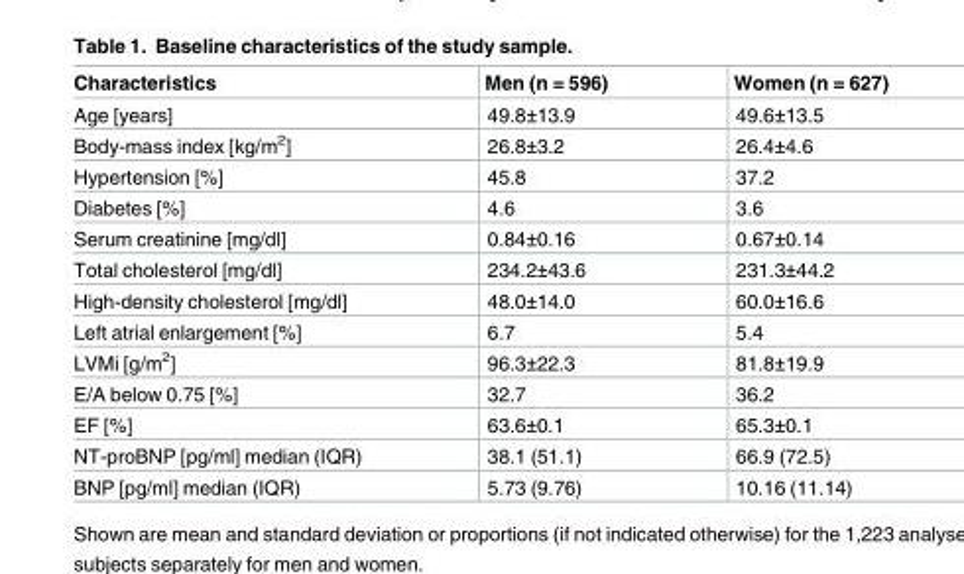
<table><thead><tr><td>Characteristics</td><td>Men (n = 596)</td><td>Women (n = 627)</td></tr></thead><tbody><tr><td>Age [years]</td><td>49.8±13.9</td><td>49.6±13.5</td></tr><tr><td>Body-mass index [kg/m<sup>2</sup>]</td><td>26.8±3.2</td><td>26.4±4.6</td></tr><tr><td>Hypertension [%]</td><td>45.8</td><td>37.2</td></tr><tr><td>Diabetes [%]</td><td>4.6</td><td>3.6</td></tr><tr><td>Serum creatinine [mg/dl]</td><td>0.84±0.16</td><td>0.67±0.14</td></tr><tr><td>Total cholesterol [mg/dl]</td><td>234.2±43.6</td><td>231.3±44.2</td></tr><tr><td>High-density cholesterol [mg/dl]</td><td>48.0±14.0</td><td>60.0±16.6</td></tr><tr><td>Left atrial enlargement [%]</td><td>6.7</td><td>5.4</td></tr><tr><td>LVMi [g/m<sup>2</sup>]</td><td>96.3±22.3</td><td>81.8±19.9</td></tr><tr><td>E/A below 0.75 [%]</td><td>32.7</td><td>36.2</td></tr><tr><td>EF [%]</td><td>63.6±0.1</td><td>65.3±0.1</td></tr><tr><td>NT-proBNP [pg/ml] median (IQR)</td><td>38.1 (51.1)</td><td>66.9 (72.5)</td></tr><tr><td>BNP [pg/ml] median (IQR)</td><td>5.73 (9.76)</td><td>10.16 (11.14)</td></tr></tbody></table>